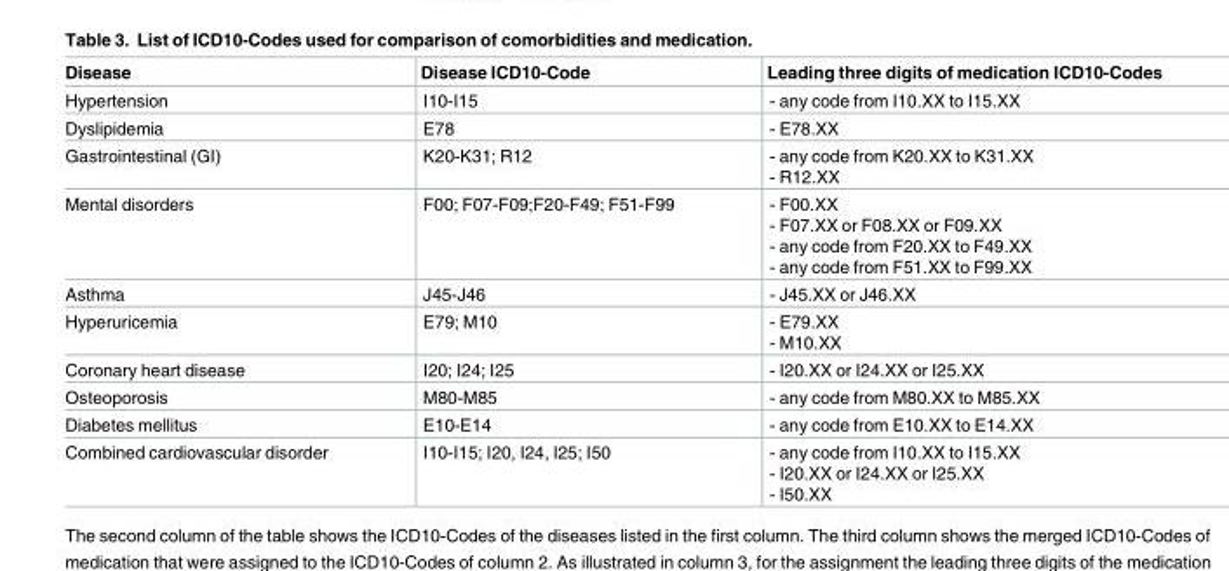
<table><thead><tr><td>Disease</td><td>Disease ICD10-Code</td><td>Leading three digits of medication ICD10-Codes</td></tr></thead><tbody><tr><td>Hypertension</td><td>I10-I15</td><td>- any code from I10.XX to I15.XX</td></tr><tr><td>Dyslipidemia</td><td>E78</td><td>- E78.XX</td></tr><tr><td>Gastrointestinal (GI)</td><td>K20-K31; R12</td><td>- any code from K20.XX to K31.XX - R12.XX</td></tr><tr><td>Mental disorders</td><td>F00; F07-F09;F20-F49; F51-F99</td><td>- F00.XX - F07.XX or F08.XX or F09.XX - any code from F20.XX to F49.XX - any code from F51.XX to F99.XX</td></tr><tr><td>Asthma</td><td>J45-J46</td><td>- J45.XX or J46.XX</td></tr><tr><td>Hyperuricemia</td><td>E79; M10</td><td>- E79.XX - M10.XX</td></tr><tr><td>Coronary heart disease</td><td>I20; I24; I25</td><td>- I20.XX or I24.XX or I25.XX</td></tr><tr><td>Osteoporosis</td><td>M80-M85</td><td>- any code from M80.XX to M85.XX</td></tr><tr><td>Diabetes mellitus</td><td>E10-E14</td><td>- any code from E10.XX to E14.XX</td></tr><tr><td>Combined cardiovascular disorder</td><td>I10-I15; I20, I24, I25; I50</td><td>- any code from I10.XX to I15.XX - I20.XX or I24.XX or I25.XX - I50.XX</td></tr></tbody></table>